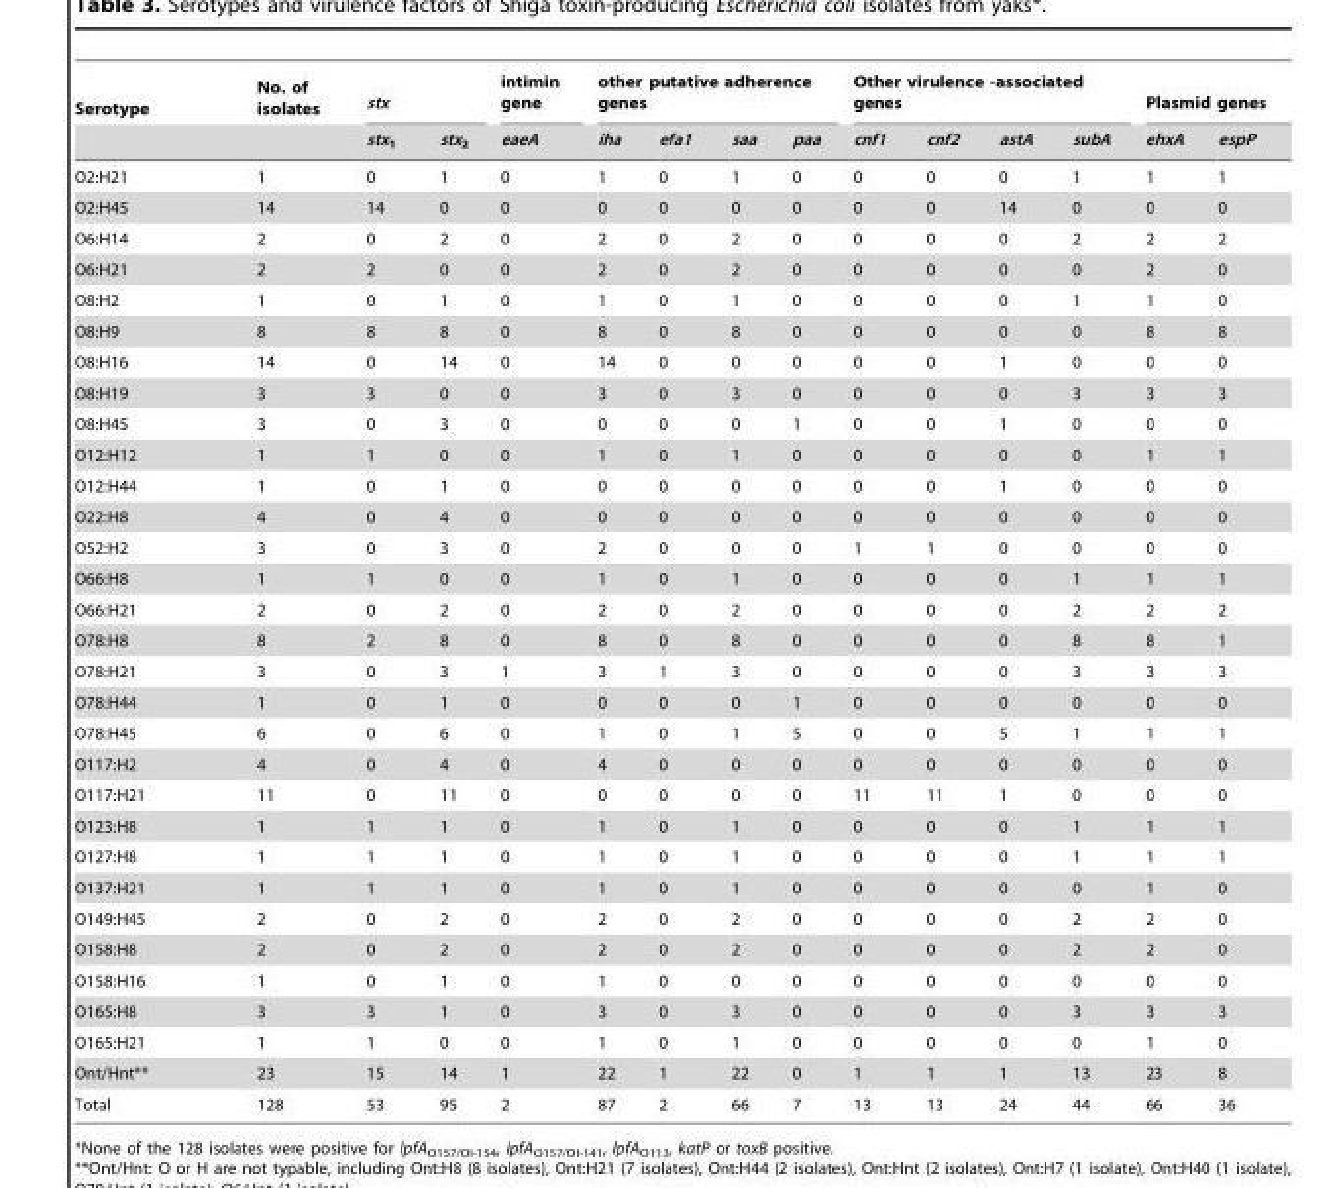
<table><thead><tr><td rowspan="2">Serotype</td><td rowspan="2">No. of isolates</td><td colspan="2">stx</td><td rowspan="2">intimin gene eaeA</td><td colspan="4">other putative adherence genes</td><td colspan="4">Other virulence -associated genes</td><td colspan="2">Plasmid genes</td></tr><tr><td>stx<sub>1</sub></td><td>stx<sub>2</sub></td><td>iha</td><td>efa1</td><td>saa</td><td>paa</td><td>cnf1</td><td>cnf2</td><td>astA</td><td>subA</td><td>ehxA</td><td>espP</td></tr></thead><tbody><tr><td>O2:H21</td><td>1</td><td>0</td><td>1</td><td>0</td><td>1</td><td>0</td><td>1</td><td>0</td><td>0</td><td>0</td><td>0</td><td>1</td><td>1</td><td>1</td></tr><tr><td>O2:H45</td><td>14</td><td>14</td><td>0</td><td>0</td><td>0</td><td>0</td><td>0</td><td>0</td><td>0</td><td>0</td><td>14</td><td>0</td><td>0</td><td>0</td></tr><tr><td>O6:H14</td><td>2</td><td>0</td><td>2</td><td>0</td><td>2</td><td>0</td><td>2</td><td>0</td><td>0</td><td>0</td><td>0</td><td>2</td><td>2</td><td>2</td></tr><tr><td>O6:H21</td><td>2</td><td>2</td><td>0</td><td>0</td><td>2</td><td>0</td><td>2</td><td>0</td><td>0</td><td>0</td><td>0</td><td>0</td><td>2</td><td>0</td></tr><tr><td>O8:H2</td><td>1</td><td>0</td><td>1</td><td>0</td><td>1</td><td>0</td><td>1</td><td>0</td><td>0</td><td>0</td><td>0</td><td>1</td><td>1</td><td>0</td></tr><tr><td>O8:H9</td><td>8</td><td>8</td><td>8</td><td>0</td><td>8</td><td>0</td><td>8</td><td>0</td><td>0</td><td>0</td><td>0</td><td>0</td><td>8</td><td>8</td></tr><tr><td>O8:H16</td><td>14</td><td>0</td><td>14</td><td>0</td><td>14</td><td>0</td><td>0</td><td>0</td><td>0</td><td>0</td><td>1</td><td>0</td><td>0</td><td>0</td></tr><tr><td>O8:H19</td><td>3</td><td>3</td><td>0</td><td>0</td><td>3</td><td>0</td><td>3</td><td>0</td><td>0</td><td>0</td><td>0</td><td>3</td><td>3</td><td>3</td></tr><tr><td>O8:H45</td><td>3</td><td>0</td><td>3</td><td>0</td><td>0</td><td>0</td><td>0</td><td>1</td><td>0</td><td>0</td><td>1</td><td>0</td><td>0</td><td>0</td></tr><tr><td>O12:H12</td><td>1</td><td>1</td><td>0</td><td>0</td><td>1</td><td>0</td><td>1</td><td>0</td><td>0</td><td>0</td><td>0</td><td>0</td><td>1</td><td>1</td></tr><tr><td>O12:H44</td><td>1</td><td>0</td><td>1</td><td>0</td><td>0</td><td>0</td><td>0</td><td>0</td><td>0</td><td>0</td><td>1</td><td>0</td><td>0</td><td>0</td></tr><tr><td>O22:H8</td><td>4</td><td>0</td><td>4</td><td>0</td><td>0</td><td>0</td><td>0</td><td>0</td><td>0</td><td>0</td><td>0</td><td>0</td><td>0</td><td>0</td></tr><tr><td>O52:H2</td><td>3</td><td>0</td><td>3</td><td>0</td><td>2</td><td>0</td><td>0</td><td>0</td><td>1</td><td>1</td><td>0</td><td>0</td><td>0</td><td>0</td></tr><tr><td>O66:H8</td><td>1</td><td>1</td><td>0</td><td>0</td><td>1</td><td>0</td><td>1</td><td>0</td><td>0</td><td>0</td><td>0</td><td>1</td><td>1</td><td>1</td></tr><tr><td>O66:H21</td><td>2</td><td>0</td><td>2</td><td>0</td><td>2</td><td>0</td><td>2</td><td>0</td><td>0</td><td>0</td><td>0</td><td>2</td><td>2</td><td>2</td></tr><tr><td>O78:H8</td><td>8</td><td>2</td><td>8</td><td>0</td><td>8</td><td>0</td><td>8</td><td>0</td><td>0</td><td>0</td><td>0</td><td>8</td><td>8</td><td>1</td></tr><tr><td>O78:H21</td><td>3</td><td>0</td><td>3</td><td>1</td><td>3</td><td>1</td><td>3</td><td>0</td><td>0</td><td>0</td><td>0</td><td>3</td><td>3</td><td>3</td></tr><tr><td>O78:H44</td><td>1</td><td>0</td><td>1</td><td>0</td><td>0</td><td>0</td><td>0</td><td>1</td><td>0</td><td>0</td><td>0</td><td>0</td><td>0</td><td>0</td></tr><tr><td>O78:H45</td><td>6</td><td>0</td><td>6</td><td>0</td><td>1</td><td>0</td><td>1</td><td>5</td><td>0</td><td>0</td><td>5</td><td>1</td><td>1</td><td>1</td></tr><tr><td>O117:H2</td><td>4</td><td>0</td><td>4</td><td>0</td><td>4</td><td>0</td><td>0</td><td>0</td><td>0</td><td>0</td><td>0</td><td>0</td><td>0</td><td>0</td></tr><tr><td>O117:H21</td><td>11</td><td>0</td><td>11</td><td>0</td><td>0</td><td>0</td><td>0</td><td>0</td><td>11</td><td>11</td><td>1</td><td>0</td><td>0</td><td>0</td></tr><tr><td>O123:H8</td><td>1</td><td>1</td><td>1</td><td>0</td><td>1</td><td>0</td><td>1</td><td>0</td><td>0</td><td>0</td><td>0</td><td>1</td><td>1</td><td>1</td></tr><tr><td>O127:H8</td><td>1</td><td>1</td><td>1</td><td>0</td><td>1</td><td>0</td><td>1</td><td>0</td><td>0</td><td>0</td><td>0</td><td>1</td><td>1</td><td>1</td></tr><tr><td>O137:H21</td><td>1</td><td>1</td><td>1</td><td>0</td><td>1</td><td>0</td><td>1</td><td>0</td><td>0</td><td>0</td><td>0</td><td>0</td><td>1</td><td>0</td></tr><tr><td>O149:H45</td><td>2</td><td>0</td><td>2</td><td>0</td><td>2</td><td>0</td><td>2</td><td>0</td><td>0</td><td>0</td><td>0</td><td>2</td><td>2</td><td>0</td></tr><tr><td>O158:H8</td><td>2</td><td>0</td><td>2</td><td>0</td><td>2</td><td>0</td><td>2</td><td>0</td><td>0</td><td>0</td><td>0</td><td>2</td><td>2</td><td>0</td></tr><tr><td>O158:H16</td><td>1</td><td>0</td><td>1</td><td>0</td><td>1</td><td>0</td><td>0</td><td>0</td><td>0</td><td>0</td><td>0</td><td>0</td><td>0</td><td>0</td></tr><tr><td>O165:H8</td><td>3</td><td>3</td><td>1</td><td>0</td><td>3</td><td>0</td><td>3</td><td>0</td><td>0</td><td>0</td><td>0</td><td>3</td><td>3</td><td>3</td></tr><tr><td>O165:H21</td><td>1</td><td>1</td><td>0</td><td>0</td><td>1</td><td>0</td><td>1</td><td>0</td><td>0</td><td>0</td><td>0</td><td>0</td><td>1</td><td>0</td></tr><tr><td>Ont/Hnt**</td><td>23</td><td>15</td><td>14</td><td>1</td><td>22</td><td>1</td><td>22</td><td>0</td><td>1</td><td>1</td><td>1</td><td>13</td><td>23</td><td>8</td></tr><tr><td>Total</td><td>128</td><td>53</td><td>95</td><td>2</td><td>87</td><td>2</td><td>66</td><td>7</td><td>13</td><td>13</td><td>24</td><td>44</td><td>66</td><td>36</td></tr></tbody></table>